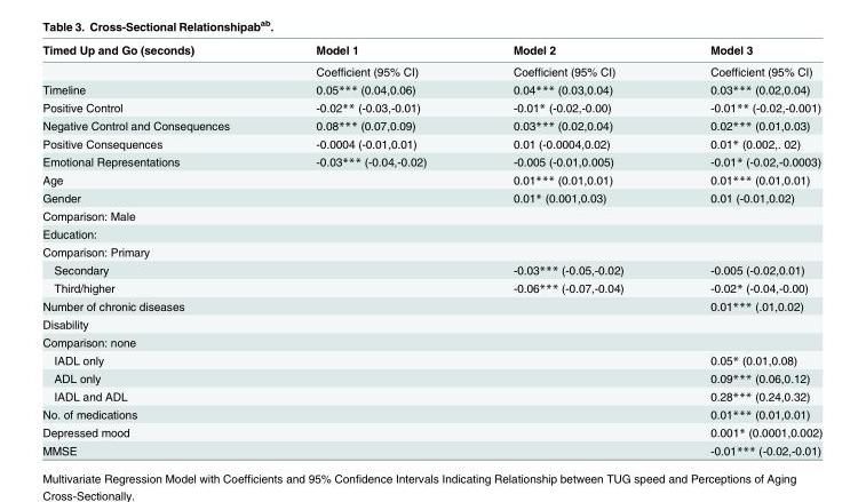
<table><thead><tr><td>Timed Up and Go (seconds)</td><td>Model 1</td><td>Model 2</td><td>Model 3</td></tr></thead><tbody><tr><td></td><td>Coefficient (95% CI)</td><td>Coefficient (95% CI)</td><td>Coefficient (95% CI)</td></tr><tr><td>Timeline</td><td>0.05*** (0.04,0.06)</td><td>0.04*** (0.03,0.04)</td><td>0.03*** (0.02,0.04)</td></tr><tr><td>Positive Control</td><td>-0.02** (-0.03,-0.01)</td><td>-0.01* (-0.02,-0.00)</td><td>-0.01** (-0.02,-0.001)</td></tr><tr><td>Negative Control and Consequences</td><td>0.08*** (0.07,0.09)</td><td>0.03*** (0.02,0.04)</td><td>0.02*** (0.01,0.03)</td></tr><tr><td>Positive Consequences</td><td>-0.0004 (-0.01,0.01)</td><td>0.01 (-0.0004,0.02)</td><td>0.01* (0.002,. 02)</td></tr><tr><td>Emotional Representations</td><td>-0.03*** (-0.04,-0.02)</td><td>-0.005 (-0.01,0.005)</td><td>-0.01* (-0.02,-0.0003)</td></tr><tr><td>Age</td><td></td><td>0.01*** (0.01,0.01)</td><td>0.01*** (0.01,0.01)</td></tr><tr><td>Gender</td><td></td><td>0.01* (0.001,0.03)</td><td>0.01 (-0.01,0.02)</td></tr><tr><td colspan="4">Comparison: Male</td></tr><tr><td colspan="4">Education:</td></tr><tr><td colspan="4">Comparison: Primary</td></tr><tr><td>Secondary</td><td></td><td>-0.03*** (-0.05,-0.02)</td><td>-0.005 (-0.02,0.01)</td></tr><tr><td>Third/higher</td><td></td><td>-0.06*** (-0.07,-0.04)</td><td>-0.02* (-0.04,-0.00)</td></tr><tr><td>Number of chronic diseases</td><td></td><td></td><td>0.01*** (.01,0.02)</td></tr><tr><td colspan="4">Disability</td></tr><tr><td colspan="4">Comparison: none</td></tr><tr><td>IADL only</td><td></td><td></td><td>0.05* (0.01,0.08)</td></tr><tr><td>ADL only</td><td></td><td></td><td>0.09*** (0.06,0.12)</td></tr><tr><td>IADL and ADL</td><td></td><td></td><td>0.28*** (0.24,0.32)</td></tr><tr><td>No. of medications</td><td></td><td></td><td>0.01*** (0.01,0.01)</td></tr><tr><td>Depressed mood</td><td></td><td></td><td>0.001* (0.0001,0.002)</td></tr><tr><td>MMSE</td><td></td><td></td><td>-0.01*** (-0.02,-0.01)</td></tr></tbody></table>